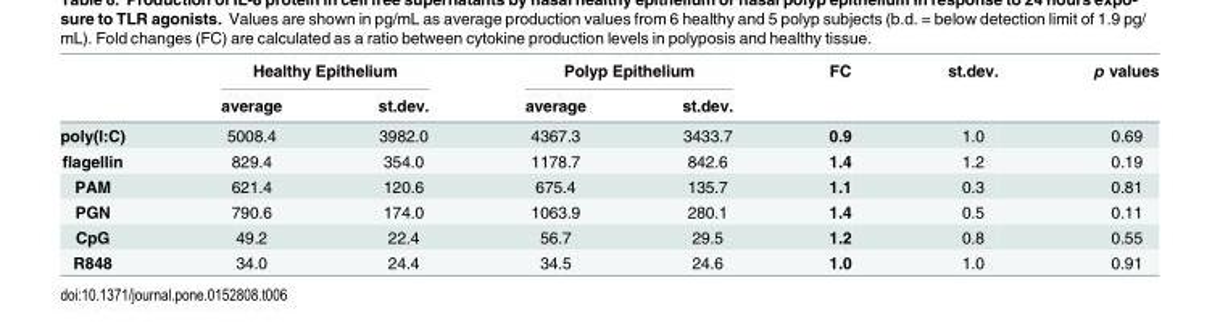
<table><thead><tr><td rowspan="2"></td><td colspan="2">Healthy Epithelium</td><td colspan="2">Polyp Epithelium</td><td rowspan="2">FC</td><td rowspan="2">st.dev.</td><td rowspan="2">p values</td></tr><tr><td>average</td><td>st.dev.</td><td>average</td><td>st.dev.</td></tr></thead><tbody><tr><td>poly(I:C)</td><td>5008.4</td><td>3982.0</td><td>4367.3</td><td>3433.7</td><td>0.9</td><td>1.0</td><td>0.69</td></tr><tr><td>flagellin</td><td>829.4</td><td>354.0</td><td>1178.7</td><td>842.6</td><td>1.4</td><td>1.2</td><td>0.19</td></tr><tr><td>PAM</td><td>621.4</td><td>120.6</td><td>675.4</td><td>135.7</td><td>1.1</td><td>0.3</td><td>0.81</td></tr><tr><td>PGN</td><td>790.6</td><td>174.0</td><td>1063.9</td><td>280.1</td><td>1.4</td><td>0.5</td><td>0.11</td></tr><tr><td>CpG</td><td>49.2</td><td>22.4</td><td>56.7</td><td>29.5</td><td>1.2</td><td>0.8</td><td>0.55</td></tr><tr><td>R848</td><td>34.0</td><td>24.4</td><td>34.5</td><td>24.6</td><td>1.0</td><td>1.0</td><td>0.91</td></tr></tbody></table>